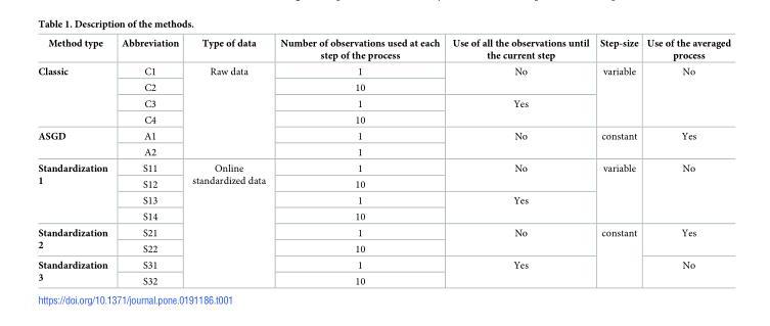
<table><thead><tr><td>Method type</td><td>Abbreviation</td><td>Type of data</td><td>Number of observations used at each step of the process</td><td>Use of all the observations until the current step</td><td>Step-size</td><td>Use of the averaged process</td></tr></thead><tbody><tr><td rowspan="4">Classic</td><td>C1</td><td rowspan="6">Raw data</td><td>1</td><td rowspan="2">No</td><td rowspan="4">variable</td><td rowspan="4">No</td></tr><tr><td>C2</td><td>10</td></tr><tr><td>C3</td><td>1</td><td rowspan="2">Yes</td></tr><tr><td>C4</td><td>10</td></tr><tr><td rowspan="2">ASGD</td><td>A1</td><td>1</td><td rowspan="2">No</td><td rowspan="2">constant</td><td rowspan="2">Yes</td></tr><tr><td>A2</td><td>1</td></tr><tr><td rowspan="4">Standardization 1</td><td>S11</td><td rowspan="8">Online standardized data</td><td>1</td><td rowspan="2">No</td><td rowspan="4">variable</td><td rowspan="4">No</td></tr><tr><td>S12</td><td>10</td></tr><tr><td>S13</td><td>1</td><td rowspan="2">Yes</td></tr><tr><td>S14</td><td>10</td></tr><tr><td rowspan="2">Standardization 2</td><td>S21</td><td>1</td><td rowspan="2">No</td><td rowspan="4">constant</td><td rowspan="2">Yes</td></tr><tr><td>S22</td><td>10</td></tr><tr><td rowspan="2">Standardization 3</td><td>S31</td><td>1</td><td rowspan="2">Yes</td><td rowspan="2">No</td></tr><tr><td>S32</td><td>10</td></tr></tbody></table>